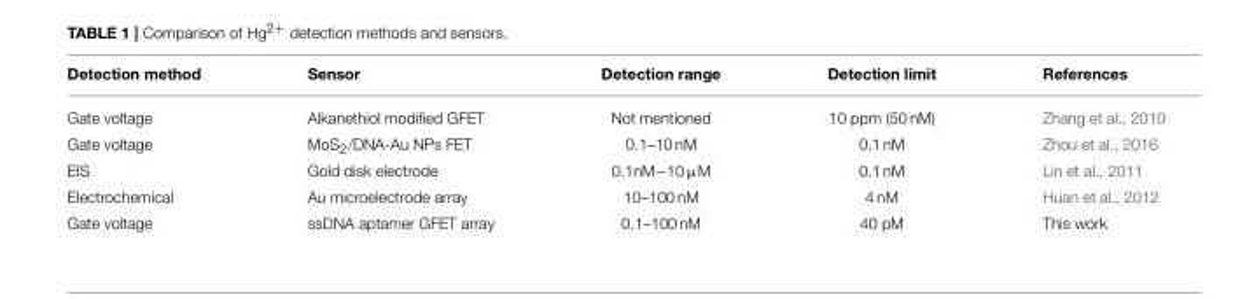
<table><thead><tr><td>Detection method</td><td>Sensor</td><td>Detection range</td><td>Detection limit</td><td>References</td></tr></thead><tbody><tr><td>Gate voltage</td><td>Alkanethiol modified GFET</td><td>Not mentioned</td><td>10 ppm (50 nM)</td><td>Zhang et al., 2010</td></tr><tr><td>Gate voltage</td><td>MoS<sub>2</sub>/DNA-Au NPs FET</td><td>0.1–10 nM</td><td>0.1 nM</td><td>Zhou et al., 2016</td></tr><tr><td>EIS</td><td>Gold disk electrode</td><td>0.1nM−10 µM</td><td>0.1 nM</td><td>Lin et al., 2011</td></tr><tr><td>Electrochemical</td><td>Au microelectrode array</td><td>10–100 nM</td><td>4 nM</td><td>Huan et al., 2012</td></tr><tr><td>Gate voltage</td><td>ssDNA aptamer GFET array</td><td>0.1–100 nM</td><td>40 pM</td><td>This work</td></tr></tbody></table>